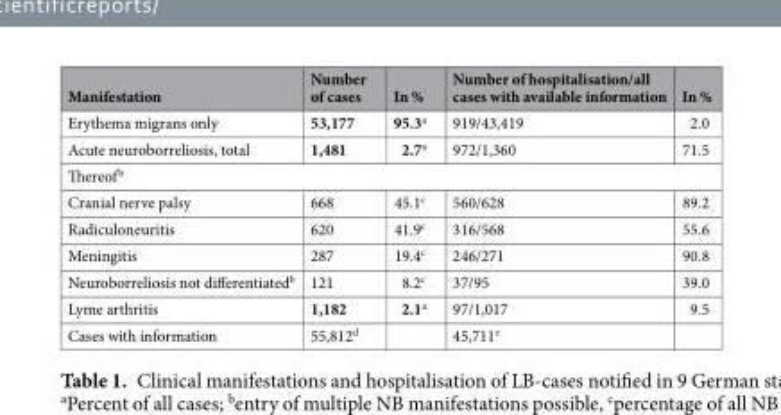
<table><thead><tr><td>Manifestation</td><td>Number of cases</td><td>In %</td><td>Number of hospitalisation/all cases with available information</td><td>In %</td></tr></thead><tbody><tr><td>Erythema migrans only</td><td>53,177</td><td>95.3<sup>a</sup></td><td>919/43,419</td><td>2.0</td></tr><tr><td>Acute neuroborreliosis, total</td><td>1,481</td><td>2.7<sup>a</sup></td><td>972/1,360</td><td>71.5</td></tr><tr><td colspan="5">Thereof <sup>b</sup></td></tr><tr><td>Cranial nerve palsy</td><td>668</td><td>45.1<sup>c</sup></td><td>560/628</td><td>89.2</td></tr><tr><td>Radiculoneuritis</td><td>620</td><td>41.9<sup>c</sup></td><td>316/568</td><td>55.6</td></tr><tr><td>Meningitis</td><td>287</td><td>19.4<sup>c</sup></td><td>246/271</td><td>90.8</td></tr><tr><td>Neuroborreliosis not differentiated<sup>b</sup></td><td>121</td><td>8.2<sup>c</sup></td><td>37/95</td><td>39.0</td></tr><tr><td>Lyme arthritis</td><td>1,182</td><td>2.1<sup>a</sup></td><td>97/1,017</td><td>9.5</td></tr><tr><td>Cases with information</td><td>55,812<sup>d</sup></td><td></td><td>45,711<sup>e</sup></td><td></td></tr></tbody></table>